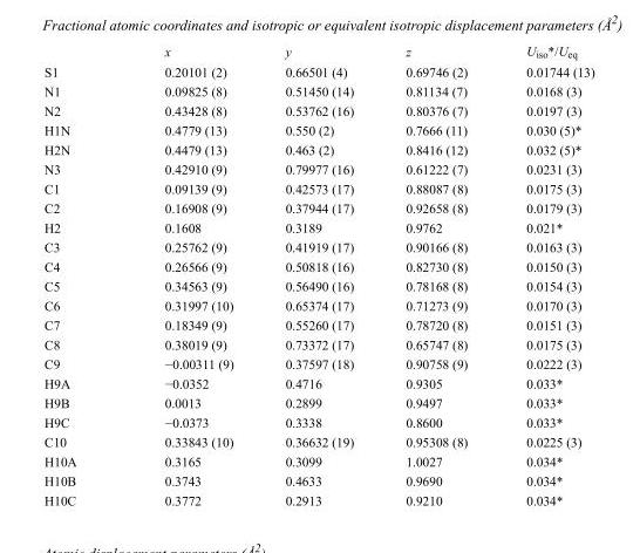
<table><thead><tr><td></td><td>x</td><td>y</td><td>z</td><td>U<sub>iso</sub>*/U<sub>eq</sub></td></tr></thead><tbody><tr><td>S1</td><td>0.20101 (2)</td><td>0.66501 (4)</td><td>0.69746 (2)</td><td>0.01744 (13)</td></tr><tr><td>N1</td><td>0.09825 (8)</td><td>0.51450 (14)</td><td>0.81134 (7)</td><td>0.0168 (3)</td></tr><tr><td>N2</td><td>0.43428 (8)</td><td>0.53762 (16)</td><td>0.80376 (7)</td><td>0.0197 (3)</td></tr><tr><td>H1N</td><td>0.4779 (13)</td><td>0.550 (2)</td><td>0.7666 (11)</td><td>0.030 (5)*</td></tr><tr><td>H2N</td><td>0.4479 (13)</td><td>0.463 (2)</td><td>0.8416 (12)</td><td>0.032 (5)*</td></tr><tr><td>N3</td><td>0.42910 (9)</td><td>0.79977 (16)</td><td>0.61222 (7)</td><td>0.0231 (3)</td></tr><tr><td>C1</td><td>0.09139 (9)</td><td>0.42573 (17)</td><td>0.88087 (8)</td><td>0.0175 (3)</td></tr><tr><td>C2</td><td>0.16908 (9)</td><td>0.37944 (17)</td><td>0.92658 (8)</td><td>0.0179 (3)</td></tr><tr><td>H2</td><td>0.1608</td><td>0.3189</td><td>0.9762</td><td>0.021*</td></tr><tr><td>C3</td><td>0.25762 (9)</td><td>0.41919 (17)</td><td>0.90166 (8)</td><td>0.0163 (3)</td></tr><tr><td>C4</td><td>0.26566 (9)</td><td>0.50818 (16)</td><td>0.82730 (8)</td><td>0.0150 (3)</td></tr><tr><td>C5</td><td>0.34563 (9)</td><td>0.56490 (16)</td><td>0.78168 (8)</td><td>0.0154 (3)</td></tr><tr><td>C6</td><td>0.31997 (10)</td><td>0.65374 (17)</td><td>0.71273 (9)</td><td>0.0170 (3)</td></tr><tr><td>C7</td><td>0.18349 (9)</td><td>0.55260 (17)</td><td>0.78720 (8)</td><td>0.0151 (3)</td></tr><tr><td>C8</td><td>0.38019 (9)</td><td>0.73372 (17)</td><td>0.65747 (8)</td><td>0.0175 (3)</td></tr><tr><td>C9</td><td>−0.00311 (9)</td><td>0.37597 (18)</td><td>0.90758 (9)</td><td>0.0222 (3)</td></tr><tr><td>H9A</td><td>−0.0352</td><td>0.4716</td><td>0.9305</td><td>0.033*</td></tr><tr><td>H9B</td><td>0.0013</td><td>0.2899</td><td>0.9497</td><td>0.033*</td></tr><tr><td>H9C</td><td>−0.0373</td><td>0.3338</td><td>0.8600</td><td>0.033*</td></tr><tr><td>C10</td><td>0.33843 (10)</td><td>0.36632 (19)</td><td>0.95308 (8)</td><td>0.0225 (3)</td></tr><tr><td>H10A</td><td>0.3165</td><td>0.3099</td><td>1.0027</td><td>0.034*</td></tr><tr><td>H10B</td><td>0.3743</td><td>0.4633</td><td>0.9690</td><td>0.034*</td></tr><tr><td>H10C</td><td>0.3772</td><td>0.2913</td><td>0.9210</td><td>0.034*</td></tr></tbody></table>